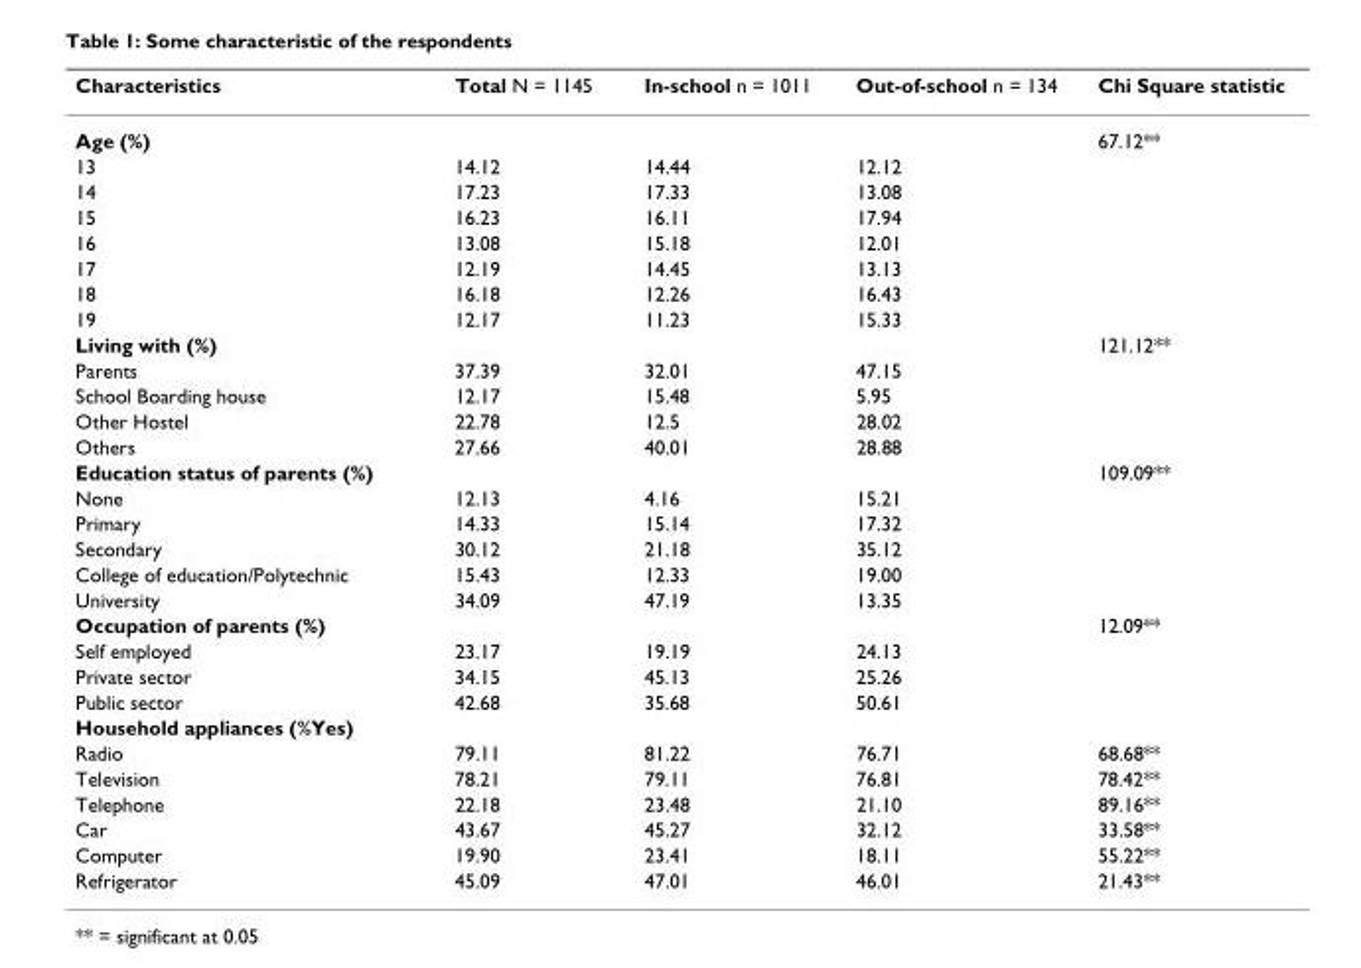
<table><thead><tr><td>Characteristics</td><td>Total N = 1145</td><td>In-school n = 1011</td><td>Out-of-school n = 134</td><td>Chi Square statistic</td></tr></thead><tbody><tr><td>Age (%)</td><td></td><td></td><td></td><td>67.12**</td></tr><tr><td>13</td><td>14.12</td><td>14.44</td><td>12.12</td><td></td></tr><tr><td>14</td><td>17.23</td><td>17.33</td><td>13.08</td><td></td></tr><tr><td>15</td><td>16.23</td><td>16.11</td><td>17.94</td><td></td></tr><tr><td>16</td><td>13.08</td><td>15.18</td><td>12.01</td><td></td></tr><tr><td>17</td><td>12.19</td><td>14.45</td><td>13.13</td><td></td></tr><tr><td>18</td><td>16.18</td><td>12.26</td><td>16.43</td><td></td></tr><tr><td>19</td><td>12.17</td><td>11.23</td><td>15.33</td><td></td></tr><tr><td>Living with (%)</td><td></td><td></td><td></td><td>121.12**</td></tr><tr><td>Parents</td><td>37.39</td><td>32.01</td><td>47.15</td><td></td></tr><tr><td>School Boarding house</td><td>12.17</td><td>15.48</td><td>5.95</td><td></td></tr><tr><td>Other Hostel</td><td>22.78</td><td>12.5</td><td>28.02</td><td></td></tr><tr><td>Others</td><td>27.66</td><td>40.01</td><td>28.88</td><td></td></tr><tr><td>Education status of parents (%)</td><td></td><td></td><td></td><td>109.09**</td></tr><tr><td>None</td><td>12.13</td><td>4.16</td><td>15.21</td><td></td></tr><tr><td>Primary</td><td>14.33</td><td>15.14</td><td>17.32</td><td></td></tr><tr><td>Secondary</td><td>30.12</td><td>21.18</td><td>35.12</td><td></td></tr><tr><td>College of education/Polytechnic</td><td>15.43</td><td>12.33</td><td>19.00</td><td></td></tr><tr><td>University</td><td>34.09</td><td>47.19</td><td>13.35</td><td></td></tr><tr><td>Occupation of parents (%)</td><td></td><td></td><td></td><td>12.09**</td></tr><tr><td>Self employed</td><td>23.17</td><td>19.19</td><td>24.13</td><td></td></tr><tr><td>Private sector</td><td>34.15</td><td>45.13</td><td>25.26</td><td></td></tr><tr><td>Public sector</td><td>42.68</td><td>35.68</td><td>50.61</td><td></td></tr><tr><td colspan="5">Household appliances (%Yes)</td></tr><tr><td>Radio</td><td>79.11</td><td>81.22</td><td>76.71</td><td>68.68**</td></tr><tr><td>Television</td><td>78.21</td><td>79.11</td><td>76.81</td><td>78.42**</td></tr><tr><td>Telephone</td><td>22.18</td><td>23.48</td><td>21.10</td><td>89.16**</td></tr><tr><td>Car</td><td>43.67</td><td>45.27</td><td>32.12</td><td>33.58**</td></tr><tr><td>Computer</td><td>19.90</td><td>23.41</td><td>18.11</td><td>55.22**</td></tr><tr><td>Refrigerator</td><td>45.09</td><td>47.01</td><td>46.01</td><td>21.43**</td></tr></tbody></table>